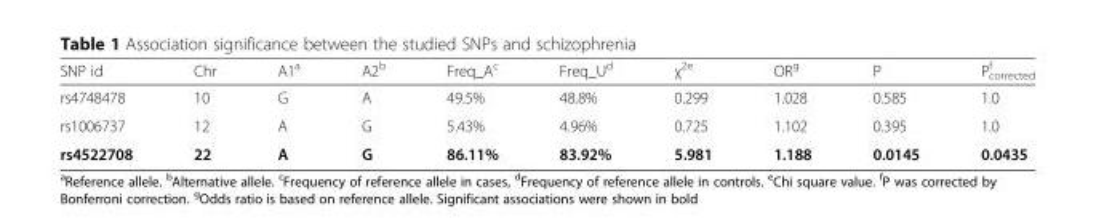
<table><thead><tr><td>SNP id</td><td>Chr</td><td>A1<sup>a</sup></td><td>A2<sup>b</sup></td><td>Freq_A<sup>c</sup></td><td>Freq_U<sup>d</sup></td><td>χ<sup>2e</sup></td><td>OR<sup>g</sup></td><td>P</td><td>P<sub>corrected</sub> <sup>f</sup></td></tr></thead><tbody><tr><td>rs4748478</td><td>10</td><td>G</td><td>A</td><td>49.5%</td><td>48.8%</td><td>0.299</td><td>1.028</td><td>0.585</td><td>1.0</td></tr><tr><td>rs1006737</td><td>12</td><td>A</td><td>G</td><td>5.43%</td><td>4.96%</td><td>0.725</td><td>1.102</td><td>0.395</td><td>1.0</td></tr><tr><td>rs4522708</td><td>22</td><td>A</td><td>G</td><td>86.11%</td><td>83.92%</td><td>5.981</td><td>1.188</td><td>0.0145</td><td>0.0435</td></tr></tbody></table>